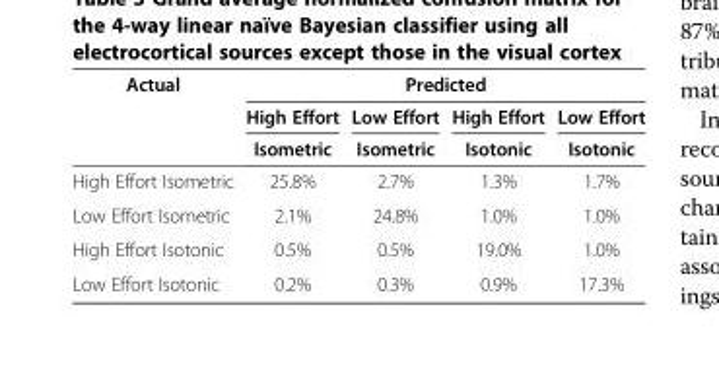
<table><thead><tr><td rowspan="3">Actual</td><td colspan="4">Predicted</td></tr><tr><td rowspan="2">High Effort Isometric</td><td rowspan="2">Low Effort Isometric</td><td rowspan="2">High Effort Isotonic</td><td rowspan="2">Low Effort Isotonic</td></tr><tr></tr></thead><tbody><tr><td>High Effort Isometric</td><td>25.8%</td><td>2.7%</td><td>1.3%</td><td>1.7%</td></tr><tr><td>Low Effort Isometric</td><td>2.1%</td><td>24.8%</td><td>1.0%</td><td>1.0%</td></tr><tr><td>High Effort Isotonic</td><td>0.5%</td><td>0.5%</td><td>19.0%</td><td>1.0%</td></tr><tr><td>Low Effort Isotonic</td><td>0.2%</td><td>0.3%</td><td>0.9%</td><td>17.3%</td></tr></tbody></table>